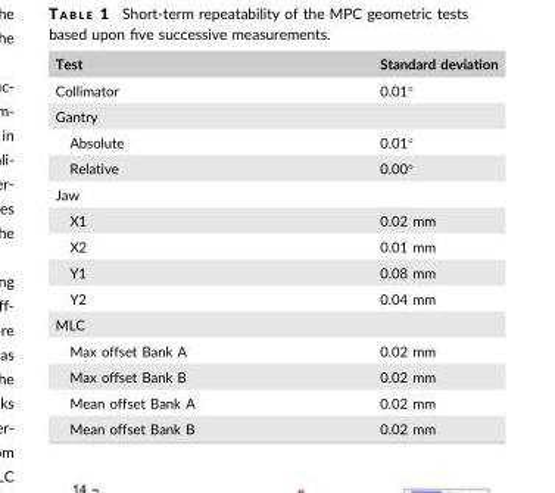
<table><thead><tr><td>Test</td><td>Standard deviation</td></tr></thead><tbody><tr><td>Collimator</td><td>0.01°</td></tr><tr><td colspan="2">Gantry</td></tr><tr><td>Absolute</td><td>0.01°</td></tr><tr><td>Relative</td><td>0.00°</td></tr><tr><td colspan="2">Jaw</td></tr><tr><td>X1</td><td>0.02 mm</td></tr><tr><td>X2</td><td>0.01 mm</td></tr><tr><td>Y1</td><td>0.08 mm</td></tr><tr><td>Y2</td><td>0.04 mm</td></tr><tr><td colspan="2">MLC</td></tr><tr><td>Max offset Bank A</td><td>0.02 mm</td></tr><tr><td>Max offset Bank B</td><td>0.02 mm</td></tr><tr><td>Mean offset Bank A</td><td>0.02 mm</td></tr><tr><td>Mean offset Bank B</td><td>0.02 mm</td></tr></tbody></table>